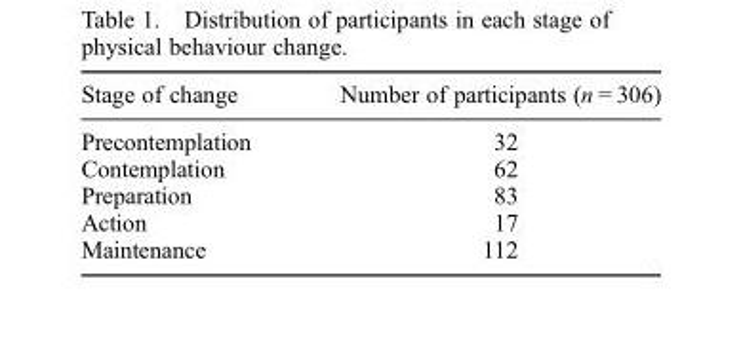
<table><thead><tr><td>Stage of change</td><td>Number of participants (n = 306)</td></tr></thead><tbody><tr><td>Precontemplation</td><td>32</td></tr><tr><td>Contemplation</td><td>62</td></tr><tr><td>Preparation</td><td>83</td></tr><tr><td>Action</td><td>17</td></tr><tr><td>Maintenance</td><td>112</td></tr></tbody></table>